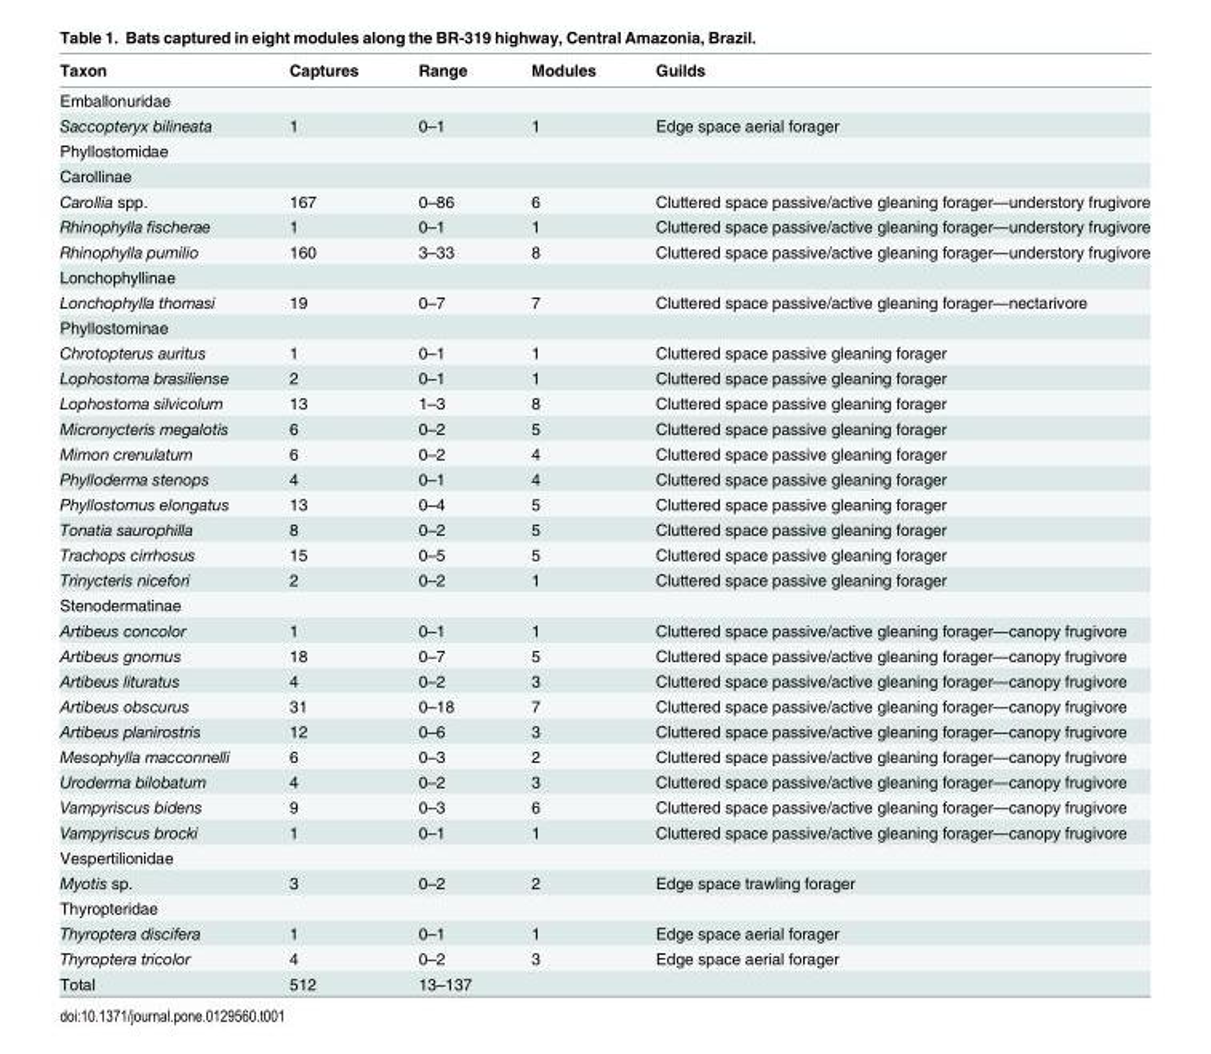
<table><thead><tr><td>Taxon</td><td>Captures</td><td>Range</td><td>Modules</td><td>Guilds</td></tr></thead><tbody><tr><td colspan="5">Emballonuridae</td></tr><tr><td>Saccopteryx bilineata</td><td>1</td><td>0–1</td><td>1</td><td>Edge space aerial forager</td></tr><tr><td colspan="5">Phyllostomidae</td></tr><tr><td colspan="5">Carollinae</td></tr><tr><td>Carollia spp.</td><td>167</td><td>0–86</td><td>6</td><td>Cluttered space passive/active gleaning forager—understory frugivore</td></tr><tr><td>Rhinophylla fischerae</td><td>1</td><td>0–1</td><td>1</td><td>Cluttered space passive/active gleaning forager—understory frugivore</td></tr><tr><td>Rhinophylla pumilio</td><td>160</td><td>3–33</td><td>8</td><td>Cluttered space passive/active gleaning forager—understory frugivore</td></tr><tr><td colspan="5">Lonchophyllinae</td></tr><tr><td>Lonchophylla thomasi</td><td>19</td><td>0–7</td><td>7</td><td>Cluttered space passive/active gleaning forager—nectarivore</td></tr><tr><td colspan="5">Phyllostominae</td></tr><tr><td>Chrotopterus auritus</td><td>1</td><td>0–1</td><td>1</td><td>Cluttered space passive gleaning forager</td></tr><tr><td>Lophostoma brasiliense</td><td>2</td><td>0–1</td><td>1</td><td>Cluttered space passive gleaning forager</td></tr><tr><td>Lophostoma silvicolum</td><td>13</td><td>1–3</td><td>8</td><td>Cluttered space passive gleaning forager</td></tr><tr><td>Micronycteris megalotis</td><td>6</td><td>0–2</td><td>5</td><td>Cluttered space passive gleaning forager</td></tr><tr><td>Mimon crenulatum</td><td>6</td><td>0–2</td><td>4</td><td>Cluttered space passive gleaning forager</td></tr><tr><td>Phylloderma stenops</td><td>4</td><td>0–1</td><td>4</td><td>Cluttered space passive gleaning forager</td></tr><tr><td>Phyllostomus elongatus</td><td>13</td><td>0–4</td><td>5</td><td>Cluttered space passive gleaning forager</td></tr><tr><td>Tonatia saurophilla</td><td>8</td><td>0–2</td><td>5</td><td>Cluttered space passive gleaning forager</td></tr><tr><td>Trachops cirrhosus</td><td>15</td><td>0–5</td><td>5</td><td>Cluttered space passive gleaning forager</td></tr><tr><td>Trinycteris nicefori</td><td>2</td><td>0–2</td><td>1</td><td>Cluttered space passive gleaning forager</td></tr><tr><td colspan="5">Stenodermatinae</td></tr><tr><td>Artibeus concolor</td><td>1</td><td>0–1</td><td>1</td><td>Cluttered space passive/active gleaning forager—canopy frugivore</td></tr><tr><td>Artibeus gnomus</td><td>18</td><td>0–7</td><td>5</td><td>Cluttered space passive/active gleaning forager—canopy frugivore</td></tr><tr><td>Artibeus lituratus</td><td>4</td><td>0–2</td><td>3</td><td>Cluttered space passive/active gleaning forager—canopy frugivore</td></tr><tr><td>Artibeus obscurus</td><td>31</td><td>0–18</td><td>7</td><td>Cluttered space passive/active gleaning forager—canopy frugivore</td></tr><tr><td>Artibeus planirostris</td><td>12</td><td>0–6</td><td>3</td><td>Cluttered space passive/active gleaning forager—canopy frugivore</td></tr><tr><td>Mesophylla macconnelli</td><td>6</td><td>0–3</td><td>2</td><td>Cluttered space passive/active gleaning forager—canopy frugivore</td></tr><tr><td>Uroderma bilobatum</td><td>4</td><td>0–2</td><td>3</td><td>Cluttered space passive/active gleaning forager—canopy frugivore</td></tr><tr><td>Vampyriscus bidens</td><td>9</td><td>0–3</td><td>6</td><td>Cluttered space passive/active gleaning forager—canopy frugivore</td></tr><tr><td>Vampyriscus brocki</td><td>1</td><td>0–1</td><td>1</td><td>Cluttered space passive/active gleaning forager—canopy frugivore</td></tr><tr><td colspan="5">Vespertilionidae</td></tr><tr><td>Myotis sp.</td><td>3</td><td>0–2</td><td>2</td><td>Edge space trawling forager</td></tr><tr><td colspan="5">Thyropteridae</td></tr><tr><td>Thyroptera discifera</td><td>1</td><td>0–1</td><td>1</td><td>Edge space aerial forager</td></tr><tr><td>Thyroptera tricolor</td><td>4</td><td>0–2</td><td>3</td><td>Edge space aerial forager</td></tr><tr><td>Total</td><td>512</td><td>13–137</td><td></td><td></td></tr></tbody></table>